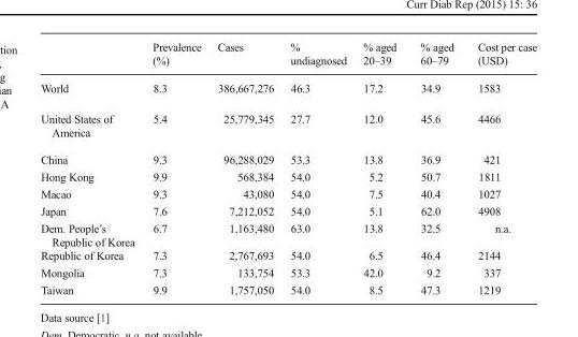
<table><thead><tr><td></td><td>Prevalence (%)</td><td>Cases</td><td>% undiagnosed</td><td>% aged 20–39</td><td>% aged 60–79</td><td>Cost per case (USD)</td></tr></thead><tbody><tr><td>World</td><td>8.3</td><td>386,667,276</td><td>46.3</td><td>17.2</td><td>34.9</td><td>1583</td></tr><tr><td>United States of America</td><td>5.4</td><td>25,779,345</td><td>27.7</td><td>12.0</td><td>45.6</td><td>4466</td></tr><tr><td>China</td><td>9.3</td><td>96,288,029</td><td>53.3</td><td>13.8</td><td>36.9</td><td>421</td></tr><tr><td>Hong Kong</td><td>9.9</td><td>568,384</td><td>54.0</td><td>5.2</td><td>50.7</td><td>1811</td></tr><tr><td>Macao</td><td>9.3</td><td>43,080</td><td>54.0</td><td>7.5</td><td>40.4</td><td>1027</td></tr><tr><td>Japan</td><td>7.6</td><td>7,212,052</td><td>54.0</td><td>5.1</td><td>62.0</td><td>4908</td></tr><tr><td>Dem. People’s Republic of Korea</td><td>6.7</td><td>1,163,480</td><td>63.0</td><td>13.8</td><td>32.5</td><td>n.a.</td></tr><tr><td>Republic of Korea</td><td>7.3</td><td>2,767,693</td><td>54.0</td><td>6.5</td><td>46.4</td><td>2144</td></tr><tr><td>Mongolia</td><td>7.3</td><td>133,754</td><td>53.3</td><td>42.0</td><td>9.2</td><td>337</td></tr><tr><td>Taiwan</td><td>9.9</td><td>1,757,050</td><td>54.0</td><td>8.5</td><td>47.3</td><td>1219</td></tr></tbody></table>